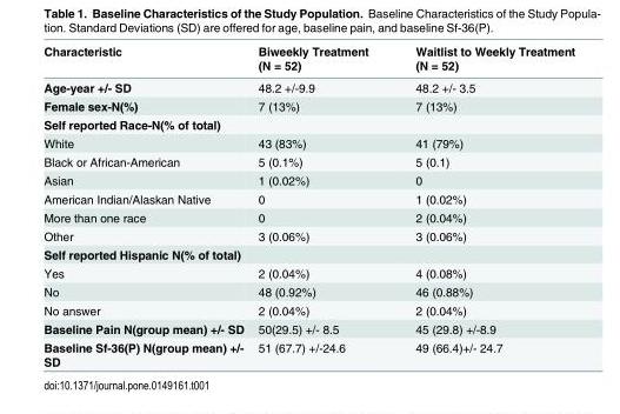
<table><thead><tr><td>Characteristic</td><td>Biweekly Treatment (N = 52)</td><td>Waitlist to Weekly Treatment (N = 52)</td></tr></thead><tbody><tr><td>Age-year +/- SD</td><td>48.2 +/-9.9</td><td>48.2 +/- 3.5</td></tr><tr><td>Female sex-N(%)</td><td>7 (13%)</td><td>7 (13%)</td></tr><tr><td colspan="3">Self reported Race-N(% of total)</td></tr><tr><td>White</td><td>43 (83%)</td><td>41 (79%)</td></tr><tr><td>Black or African-American</td><td>5 (0.1%)</td><td>5 (0.1)</td></tr><tr><td>Asian</td><td>1 (0.02%)</td><td>0</td></tr><tr><td>American Indian/Alaskan Native</td><td>0</td><td>1 (0.02%)</td></tr><tr><td>More than one race</td><td>0</td><td>2 (0.04%)</td></tr><tr><td>Other</td><td>3 (0.06%)</td><td>3 (0.06%)</td></tr><tr><td colspan="3">Self reported Hispanic N(% of total)</td></tr><tr><td>Yes</td><td>2 (0.04%)</td><td>4 (0.08%)</td></tr><tr><td>No</td><td>48 (0.92%)</td><td>46 (0.88%)</td></tr><tr><td>No answer</td><td>2 (0.04%)</td><td>2 (0.04%)</td></tr><tr><td>Baseline Pain N(group mean) +/- SD</td><td>50(29.5) +/- 8.5</td><td>45 (29.8) +/-8.9</td></tr><tr><td>Baseline Sf-36(P) N(group mean) +/- SD</td><td>51 (67.7) +/-24.6</td><td>49 (66.4)+/- 24.7</td></tr></tbody></table>